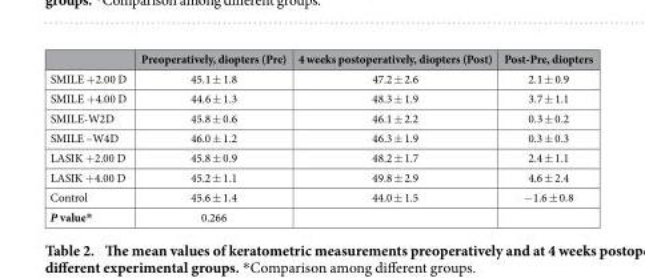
<table><thead><tr><td></td><td>Preoperatively, diopters (Pre)</td><td>4 weeks postoperatively, diopters (Post)</td><td>Post-Pre, diopters</td></tr></thead><tbody><tr><td>SMILE +2.00 D</td><td>45.1 ± 1.8</td><td>47.2 ± 2.6</td><td>2.1 ± 0.9</td></tr><tr><td>SMILE +4.00 D</td><td>44.6 ± 1.3</td><td>48.3 ± 1.9</td><td>3.7 ± 1.1</td></tr><tr><td>SMILE-W2D</td><td>45.8 ± 0.6</td><td>46.1 ± 2.2</td><td>0.3 ± 0.2</td></tr><tr><td>SMILE –W4D</td><td>46.0 ± 1.2</td><td>46.3 ± 1.9</td><td>0.3 ± 0.3</td></tr><tr><td>LASIK +2.00 D</td><td>45.8 ± 0.9</td><td>48.2 ± 1.7</td><td>2.4 ± 1.1</td></tr><tr><td>LASIK +4.00 D</td><td>45.2 ± 1.1</td><td>49.8 ± 2.9</td><td>4.6 ± 2.4</td></tr><tr><td>Control</td><td>45.6 ± 1.4</td><td>44.0 ± 1.5</td><td>− 1.6 ± 0.8</td></tr><tr><td>P value*</td><td>0.266</td><td></td><td></td></tr></tbody></table>